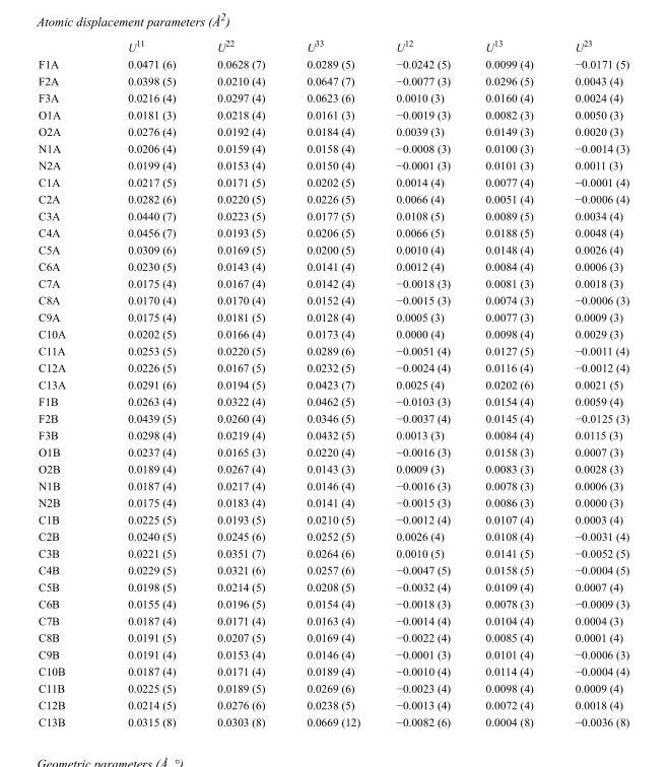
<table><thead><tr><td></td><td>U<sup>11</sup></td><td>U<sup>22</sup></td><td>U<sup>33</sup></td><td>U<sup>12</sup></td><td>U<sup>13</sup></td><td>U<sup>23</sup></td></tr></thead><tbody><tr><td>F1A</td><td>0.0471 (6)</td><td>0.0628 (7)</td><td>0.0289 (5)</td><td>−0.0242 (5)</td><td>0.0099 (4)</td><td>−0.0171 (5)</td></tr><tr><td>F2A</td><td>0.0398 (5)</td><td>0.0210 (4)</td><td>0.0647 (7)</td><td>−0.0077 (3)</td><td>0.0296 (5)</td><td>0.0043 (4)</td></tr><tr><td>F3A</td><td>0.0216 (4)</td><td>0.0297 (4)</td><td>0.0623 (6)</td><td>0.0010 (3)</td><td>0.0160 (4)</td><td>0.0024 (4)</td></tr><tr><td>O1A</td><td>0.0181 (3)</td><td>0.0218 (4)</td><td>0.0161 (3)</td><td>−0.0019 (3)</td><td>0.0082 (3)</td><td>0.0050 (3)</td></tr><tr><td>O2A</td><td>0.0276 (4)</td><td>0.0192 (4)</td><td>0.0184 (4)</td><td>0.0039 (3)</td><td>0.0149 (3)</td><td>0.0020 (3)</td></tr><tr><td>N1A</td><td>0.0206 (4)</td><td>0.0159 (4)</td><td>0.0158 (4)</td><td>−0.0008 (3)</td><td>0.0100 (3)</td><td>−0.0014 (3)</td></tr><tr><td>N2A</td><td>0.0199 (4)</td><td>0.0153 (4)</td><td>0.0150 (4)</td><td>−0.0001 (3)</td><td>0.0101 (3)</td><td>0.0011 (3)</td></tr><tr><td>C1A</td><td>0.0217 (5)</td><td>0.0171 (5)</td><td>0.0202 (5)</td><td>0.0014 (4)</td><td>0.0077 (4)</td><td>−0.0001 (4)</td></tr><tr><td>C2A</td><td>0.0282 (6)</td><td>0.0220 (5)</td><td>0.0226 (5)</td><td>0.0066 (4)</td><td>0.0051 (4)</td><td>−0.0006 (4)</td></tr><tr><td>C3A</td><td>0.0440 (7)</td><td>0.0223 (5)</td><td>0.0177 (5)</td><td>0.0108 (5)</td><td>0.0089 (5)</td><td>0.0034 (4)</td></tr><tr><td>C4A</td><td>0.0456 (7)</td><td>0.0193 (5)</td><td>0.0206 (5)</td><td>0.0066 (5)</td><td>0.0188 (5)</td><td>0.0048 (4)</td></tr><tr><td>C5A</td><td>0.0309 (6)</td><td>0.0169 (5)</td><td>0.0200 (5)</td><td>0.0010 (4)</td><td>0.0148 (4)</td><td>0.0026 (4)</td></tr><tr><td>C6A</td><td>0.0230 (5)</td><td>0.0143 (4)</td><td>0.0141 (4)</td><td>0.0012 (4)</td><td>0.0084 (4)</td><td>0.0006 (3)</td></tr><tr><td>C7A</td><td>0.0175 (4)</td><td>0.0167 (4)</td><td>0.0142 (4)</td><td>−0.0018 (3)</td><td>0.0081 (3)</td><td>0.0018 (3)</td></tr><tr><td>C8A</td><td>0.0170 (4)</td><td>0.0170 (4)</td><td>0.0152 (4)</td><td>−0.0015 (3)</td><td>0.0074 (3)</td><td>−0.0006 (3)</td></tr><tr><td>C9A</td><td>0.0175 (4)</td><td>0.0181 (5)</td><td>0.0128 (4)</td><td>0.0005 (3)</td><td>0.0077 (3)</td><td>0.0009 (3)</td></tr><tr><td>C10A</td><td>0.0202 (5)</td><td>0.0166 (4)</td><td>0.0173 (4)</td><td>0.0000 (4)</td><td>0.0098 (4)</td><td>0.0029 (3)</td></tr><tr><td>C11A</td><td>0.0253 (5)</td><td>0.0220 (5)</td><td>0.0289 (6)</td><td>−0.0051 (4)</td><td>0.0127 (5)</td><td>−0.0011 (4)</td></tr><tr><td>C12A</td><td>0.0226 (5)</td><td>0.0167 (5)</td><td>0.0232 (5)</td><td>−0.0024 (4)</td><td>0.0116 (4)</td><td>−0.0012 (4)</td></tr><tr><td>C13A</td><td>0.0291 (6)</td><td>0.0194 (5)</td><td>0.0423 (7)</td><td>0.0025 (4)</td><td>0.0202 (6)</td><td>0.0021 (5)</td></tr><tr><td>F1B</td><td>0.0263 (4)</td><td>0.0322 (4)</td><td>0.0462 (5)</td><td>−0.0103 (3)</td><td>0.0154 (4)</td><td>0.0059 (4)</td></tr><tr><td>F2B</td><td>0.0439 (5)</td><td>0.0260 (4)</td><td>0.0346 (5)</td><td>−0.0037 (4)</td><td>0.0145 (4)</td><td>−0.0125 (3)</td></tr><tr><td>F3B</td><td>0.0298 (4)</td><td>0.0219 (4)</td><td>0.0432 (5)</td><td>0.0013 (3)</td><td>0.0084 (4)</td><td>0.0115 (3)</td></tr><tr><td>O1B</td><td>0.0237 (4)</td><td>0.0165 (3)</td><td>0.0220 (4)</td><td>−0.0016 (3)</td><td>0.0158 (3)</td><td>0.0007 (3)</td></tr><tr><td>O2B</td><td>0.0189 (4)</td><td>0.0267 (4)</td><td>0.0143 (3)</td><td>0.0009 (3)</td><td>0.0083 (3)</td><td>0.0028 (3)</td></tr><tr><td>N1B</td><td>0.0187 (4)</td><td>0.0217 (4)</td><td>0.0146 (4)</td><td>−0.0016 (3)</td><td>0.0078 (3)</td><td>0.0006 (3)</td></tr><tr><td>N2B</td><td>0.0175 (4)</td><td>0.0183 (4)</td><td>0.0141 (4)</td><td>−0.0015 (3)</td><td>0.0086 (3)</td><td>0.0000 (3)</td></tr><tr><td>C1B</td><td>0.0225 (5)</td><td>0.0193 (5)</td><td>0.0210 (5)</td><td>−0.0012 (4)</td><td>0.0107 (4)</td><td>0.0003 (4)</td></tr><tr><td>C2B</td><td>0.0240 (5)</td><td>0.0245 (6)</td><td>0.0252 (5)</td><td>0.0026 (4)</td><td>0.0108 (4)</td><td>−0.0031 (4)</td></tr><tr><td>C3B</td><td>0.0221 (5)</td><td>0.0351 (7)</td><td>0.0264 (6)</td><td>0.0010 (5)</td><td>0.0141 (5)</td><td>−0.0052 (5)</td></tr><tr><td>C4B</td><td>0.0229 (5)</td><td>0.0321 (6)</td><td>0.0257 (6)</td><td>−0.0047 (5)</td><td>0.0158 (5)</td><td>−0.0004 (5)</td></tr><tr><td>C5B</td><td>0.0198 (5)</td><td>0.0214 (5)</td><td>0.0208 (5)</td><td>−0.0032 (4)</td><td>0.0109 (4)</td><td>0.0007 (4)</td></tr><tr><td>C6B</td><td>0.0155 (4)</td><td>0.0196 (5)</td><td>0.0154 (4)</td><td>−0.0018 (3)</td><td>0.0078 (3)</td><td>−0.0009 (3)</td></tr><tr><td>C7B</td><td>0.0187 (4)</td><td>0.0171 (4)</td><td>0.0163 (4)</td><td>−0.0014 (4)</td><td>0.0104 (4)</td><td>0.0004 (3)</td></tr><tr><td>C8B</td><td>0.0191 (5)</td><td>0.0207 (5)</td><td>0.0169 (4)</td><td>−0.0022 (4)</td><td>0.0085 (4)</td><td>0.0001 (4)</td></tr><tr><td>C9B</td><td>0.0191 (4)</td><td>0.0153 (4)</td><td>0.0146 (4)</td><td>−0.0001 (3)</td><td>0.0101 (4)</td><td>−0.0006 (3)</td></tr><tr><td>C10B</td><td>0.0187 (4)</td><td>0.0171 (4)</td><td>0.0189 (4)</td><td>−0.0010 (4)</td><td>0.0114 (4)</td><td>−0.0004 (4)</td></tr><tr><td>C11B</td><td>0.0225 (5)</td><td>0.0189 (5)</td><td>0.0269 (6)</td><td>−0.0023 (4)</td><td>0.0098 (4)</td><td>0.0009 (4)</td></tr><tr><td>C12B</td><td>0.0214 (5)</td><td>0.0276 (6)</td><td>0.0238 (5)</td><td>−0.0013 (4)</td><td>0.0072 (4)</td><td>0.0018 (4)</td></tr><tr><td>C13B</td><td>0.0315 (8)</td><td>0.0303 (8)</td><td>0.0669 (12)</td><td>−0.0082 (6)</td><td>0.0004 (8)</td><td>−0.0036 (8)</td></tr></tbody></table>